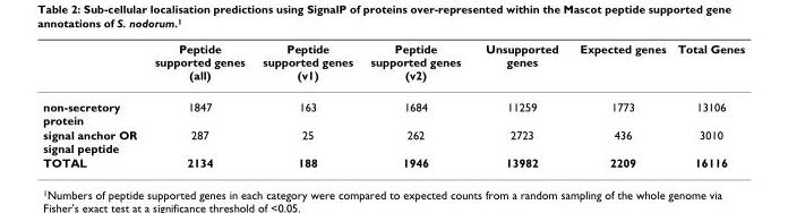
<table><thead><tr><td></td><td>Peptide supported genes (all)</td><td>Peptide supported genes (v1)</td><td>Peptide supported genes (v2)</td><td>Unsupported genes</td><td>Expected genes</td><td>Total Genes</td></tr></thead><tbody><tr><td>non-secretory protein</td><td>1847</td><td>163</td><td>1684</td><td>11259</td><td>1773</td><td>13106</td></tr><tr><td>signal anchor OR signal peptide</td><td>287</td><td>25</td><td>262</td><td>2723</td><td>436</td><td>3010</td></tr><tr><td>TOTAL</td><td>2134</td><td>188</td><td>1946</td><td>13982</td><td>2209</td><td>16116</td></tr></tbody></table>